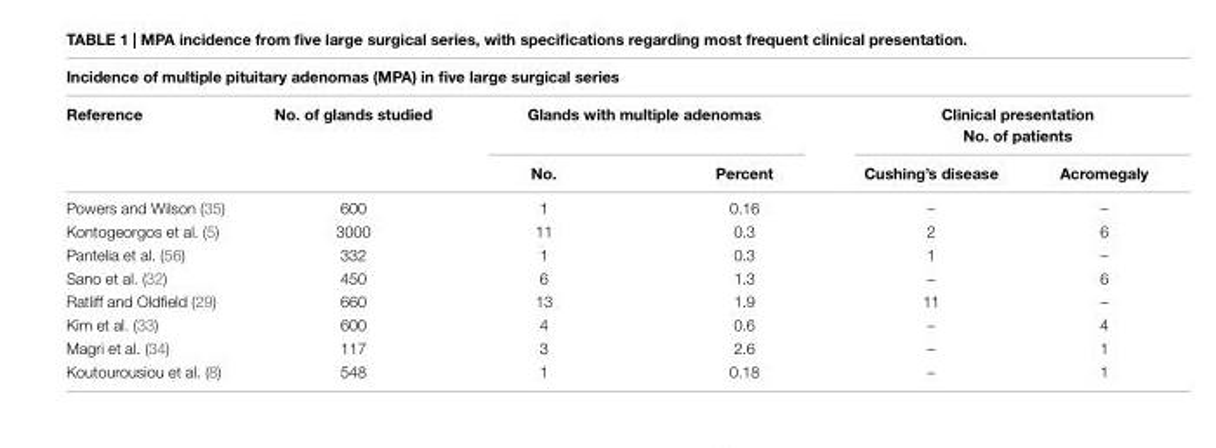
<table><thead><tr><td colspan="6">incidence of multiple pituitary adenomas (MPA) in five large surgical series</td></tr><tr><td rowspan="2">Reference</td><td rowspan="2">No. of glands studied</td><td colspan="2">Glands with multiple adenomas</td><td colspan="2">Clinical presentation No. of patients</td></tr><tr><td>No.</td><td>Percent</td><td>Cushing’s disease</td><td>Acromegaly</td></tr></thead><tbody><tr><td>Powers and Wilson (35)</td><td>600</td><td>1</td><td>0.16</td><td>–</td><td>–</td></tr><tr><td>Kontogeorgos et al. (5)</td><td>3000</td><td>11</td><td>0.3</td><td>2</td><td>6</td></tr><tr><td>Pantelia et al. (56)</td><td>332</td><td>1</td><td>0.3</td><td>1</td><td>–</td></tr><tr><td>Sano et al. (32)</td><td>450</td><td>6</td><td>1.3</td><td>–</td><td>6</td></tr><tr><td>Ratliff and Oldfield (29)</td><td>660</td><td>13</td><td>1.9</td><td>11</td><td>–</td></tr><tr><td>Kim et al. (33)</td><td>600</td><td>4</td><td>0.6</td><td>–</td><td>4</td></tr><tr><td>Magri et al. (34)</td><td>117</td><td>3</td><td>2.6</td><td>–</td><td>1</td></tr><tr><td>Koutourousiou et al. (8)</td><td>548</td><td>1</td><td>0.18</td><td>–</td><td>1</td></tr></tbody></table>